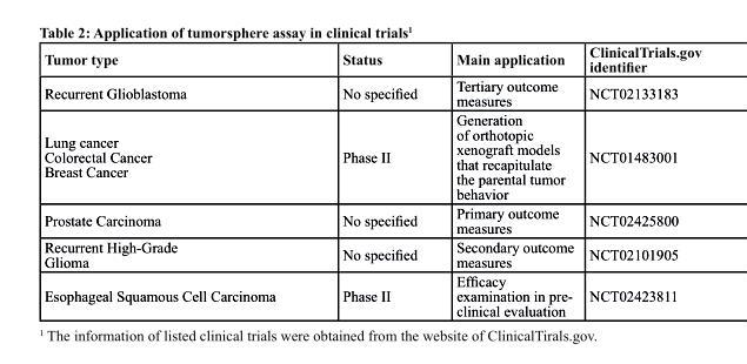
<table><thead><tr><td>Tumor type</td><td>Status</td><td>Main application</td><td>ClinicalTrials.gov identifier</td></tr></thead><tbody><tr><td>Recurrent Glioblastoma</td><td>No specified</td><td>Tertiary outcome measures</td><td>NCT02133183</td></tr><tr><td>Lung cancer Colorectal Cancer Breast Cancer</td><td>Phase II</td><td>Generation of orthotopic xenograft models that recapitulate the parental tumor behavior</td><td>NCT01483001</td></tr><tr><td>Prostate Carcinoma</td><td>No specified</td><td>Primary outcome measures</td><td>NCT02425800</td></tr><tr><td>Recurrent High-Grade Glioma</td><td>No specified</td><td>Secondary outcome measures</td><td>NCT02101905</td></tr><tr><td>Esophageal Squamous Cell Carcinoma</td><td>Phase II</td><td>Efficacy examination in pre- clinical evaluation</td><td>NCT02423811</td></tr></tbody></table>